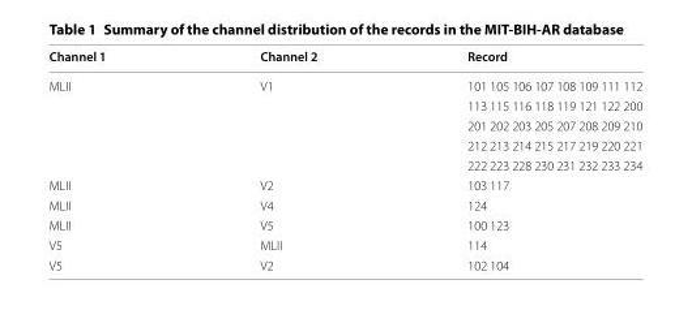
<table><thead><tr><td>Channel 1</td><td>Channel 2</td><td>Record</td></tr></thead><tbody><tr><td rowspan="5">MLII</td><td rowspan="5">V1</td><td>101 105 106 107 108 109 111 112</td></tr><tr><td>113 115 116 118 119 121 122 200</td></tr><tr><td>201 202 203 205 207 208 209 210</td></tr><tr><td>212 213 214 215 217 219 220 221</td></tr><tr><td>222 223 228 230 231 232 233 234</td></tr><tr><td>MLII</td><td>V2</td><td>103 117</td></tr><tr><td>MLII</td><td>V4</td><td>124</td></tr><tr><td>MLII</td><td>V5</td><td>100 123</td></tr><tr><td>V5</td><td>MLII</td><td>114</td></tr><tr><td>V5</td><td>V2</td><td>102 104</td></tr></tbody></table>